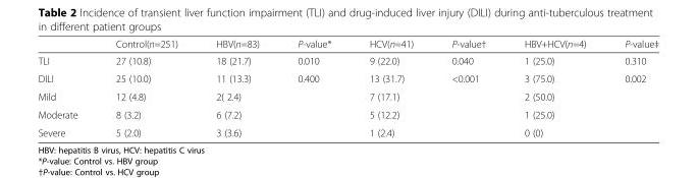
<table><thead><tr><td></td><td>Control(n=251)</td><td>HBV(n=83)</td><td>P-value*</td><td>HCV(n=41)</td><td>P-value†</td><td>HBV+HCV(n=4)</td><td>P-value‡</td></tr></thead><tbody><tr><td>TLI</td><td>27 (10.8)</td><td>18 (21.7)</td><td>0.010</td><td>9 (22.0)</td><td>0.040</td><td>1 (25.0)</td><td>0.310</td></tr><tr><td>DILI</td><td>25 (10.0)</td><td>11 (13.3)</td><td>0.400</td><td>13 (31.7)</td><td>&lt;0.001</td><td>3 (75.0)</td><td>0.002</td></tr><tr><td>Mild</td><td>12 (4.8)</td><td>2( 2.4)</td><td></td><td>7 (17.1)</td><td></td><td>2 (50.0)</td><td></td></tr><tr><td>Moderate</td><td>8 (3.2)</td><td>6 (7.2)</td><td></td><td>5 (12.2)</td><td></td><td>1 (25.0)</td><td></td></tr><tr><td>Severe</td><td>5 (2.0)</td><td>3 (3.6)</td><td></td><td>1 (2.4)</td><td></td><td>0 (0)</td><td></td></tr></tbody></table>